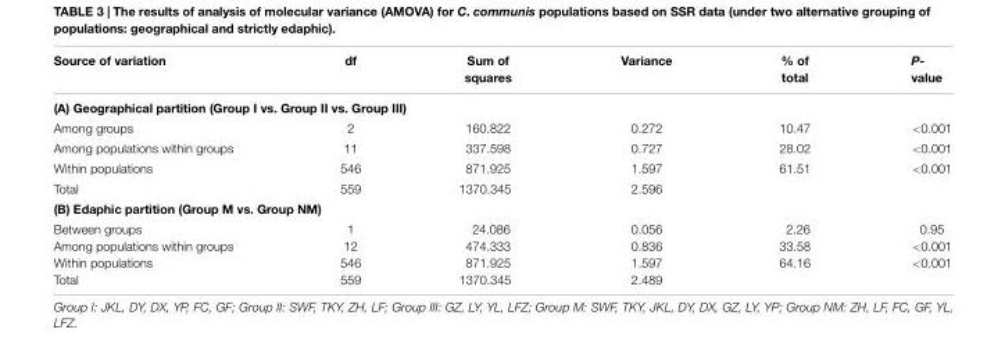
<table><thead><tr><td>Source of variation</td><td>df</td><td>Sum of squares</td><td>Variance</td><td>% of total</td><td>P- value</td></tr></thead><tbody><tr><td colspan="6">(A) Geographical partition (Group I vs. Group II vs. Group III)</td></tr><tr><td>Among groups</td><td>2</td><td>160.822</td><td>0.272</td><td>10.47</td><td>&lt;0.001</td></tr><tr><td>Among populations within groups</td><td>11</td><td>337.598</td><td>0.727</td><td>28.02</td><td>&lt;0.001</td></tr><tr><td>Within populations</td><td>546</td><td>871.925</td><td>1.597</td><td>61.51</td><td>&lt;0.001</td></tr><tr><td>Total</td><td>559</td><td>1370.345</td><td>2.596</td><td></td><td></td></tr><tr><td colspan="6">(B) Edaphic partition (Group M vs. Group NM)</td></tr><tr><td>Between groups Among populations within groups Within populations Total</td><td>1 12 546 559</td><td>24.086 474.333 871.925 1370.345</td><td>0.056 0.836 1.597 2.489</td><td>2.26 33.58 64.16</td><td>0.95 &lt;0.001 &lt;0.001</td></tr></tbody></table>